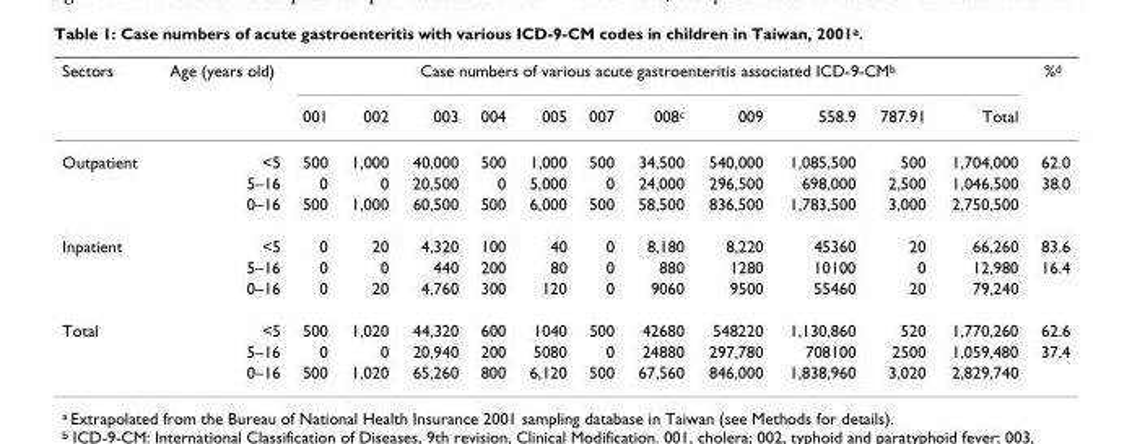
<table><thead><tr><td rowspan="2">Sectors</td><td rowspan="2">Age (years old)</td><td colspan="11">Case numbers of various acute gastroenteritis associated ICD-9-CM<sup>b</sup></td><td rowspan="2">%<sup>d</sup></td></tr><tr><td>001</td><td>002</td><td>003</td><td>004</td><td>005</td><td>007</td><td>008<sup>c</sup></td><td>009</td><td>558.9</td><td>787.91</td><td>Total</td></tr></thead><tbody><tr><td rowspan="3">Outpatient</td><td>&lt;5</td><td>500</td><td>1,000</td><td>40,000</td><td>500</td><td>1,000</td><td>500</td><td>34,500</td><td>540,000</td><td>1,085,500</td><td>500</td><td>1,704,000</td><td>62.0</td></tr><tr><td>5–16</td><td>0</td><td>0</td><td>20,500</td><td>0</td><td>5,000</td><td>0</td><td>24,000</td><td>296,500</td><td>698,000</td><td>2,500</td><td>1,046,500</td><td>38.0</td></tr><tr><td>0–16</td><td>500</td><td>1,000</td><td>60,500</td><td>500</td><td>6,000</td><td>500</td><td>58,500</td><td>836,500</td><td>1,783,500</td><td>3,000</td><td>2,750,500</td><td></td></tr><tr><td rowspan="3">Inpatient</td><td>&lt;5</td><td>0</td><td>20</td><td>4,320</td><td>100</td><td>40</td><td>0</td><td>8,180</td><td>8,220</td><td>45360</td><td>20</td><td>66,260</td><td>83.6</td></tr><tr><td>5–16</td><td>0</td><td>0</td><td>440</td><td>200</td><td>80</td><td>0</td><td>880</td><td>1280</td><td>10100</td><td>0</td><td>12,980</td><td>16.4</td></tr><tr><td>0–16</td><td>0</td><td>20</td><td>4,760</td><td>300</td><td>120</td><td>0</td><td>9060</td><td>9500</td><td>55460</td><td>20</td><td>79,240</td><td></td></tr><tr><td rowspan="3">Total</td><td>&lt;5</td><td>500</td><td>1,020</td><td>44,320</td><td>600</td><td>1040</td><td>500</td><td>42680</td><td>548220</td><td>1,130,860</td><td>520</td><td>1,770,260</td><td>62.6</td></tr><tr><td>5–16</td><td>0</td><td>0</td><td>20,940</td><td>200</td><td>5080</td><td>0</td><td>24880</td><td>297,780</td><td>708100</td><td>2500</td><td>1,059,480</td><td>37.4</td></tr><tr><td>0–16</td><td>500</td><td>1,020</td><td>65,260</td><td>800</td><td>6,120</td><td>500</td><td>67,560</td><td>846,000</td><td>1,838,960</td><td>3,020</td><td>2,829,740</td><td></td></tr></tbody></table>